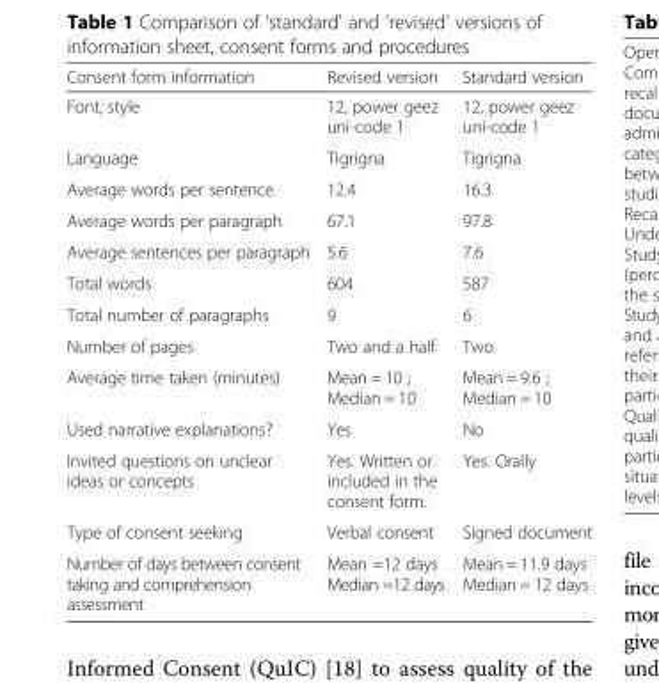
<table><thead><tr><td>Consent form information</td><td>Revised version</td><td>Standard version</td></tr></thead><tbody><tr><td>Font, style</td><td>12, power geez uni-code 1</td><td>12, power geez uni-code 1</td></tr><tr><td>Language</td><td>Tigrigna</td><td>Tigrigna</td></tr><tr><td>Average words per sentence</td><td>12.4</td><td>16.3</td></tr><tr><td>Average words per paragraph</td><td>67.1</td><td>97.8</td></tr><tr><td>Average sentences per paragraph</td><td>5.6</td><td>7.6</td></tr><tr><td>Total words</td><td>604</td><td>587</td></tr><tr><td>Total number of paragraphs</td><td>9</td><td>6</td></tr><tr><td>Number of pages</td><td>Two and a half</td><td>Two</td></tr><tr><td>Average time taken (minutes)</td><td>Mean = 10 ; Median = 10</td><td>Mean = 9.6 ; Median = 10</td></tr><tr><td>Used narrative explanations?</td><td>Yes</td><td>No</td></tr><tr><td>Invited questions on unclear ideas or concepts</td><td>Yes. Written or included in the consent form.</td><td>Yes. Orally</td></tr><tr><td>Type of consent seeking</td><td>Verbal consent</td><td>Signed document</td></tr><tr><td>Number of days between consent taking and comprehension assessment</td><td>Mean =12 days Median =12 days</td><td>Mean = 11.9 days Median = 12 days</td></tr></tbody></table>